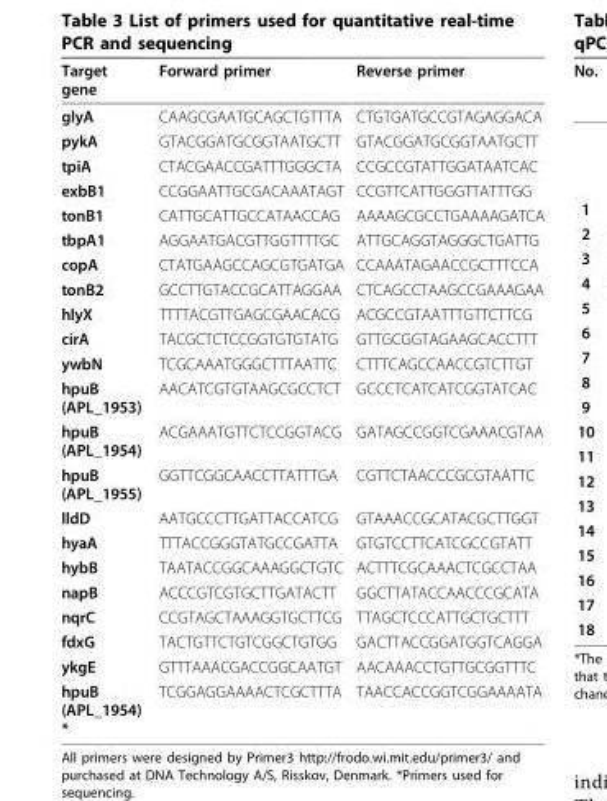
<table><thead><tr><td>Target gene</td><td>Forward primer</td><td>Reverse primer</td></tr></thead><tbody><tr><td>glyA</td><td>CAAGCGAATGCAGCTGTTTA</td><td>CTGTGATGCCGTAGAGGACA</td></tr><tr><td>pykA</td><td>GTACGGATGCGGTAATGCTT</td><td>GTACGGATGCGGTAATGCTT</td></tr><tr><td>tpiA</td><td>CTACGAACCGATTTGGGCTA</td><td>CCGCCGTATTGGATAATCAC</td></tr><tr><td>exbB1</td><td>CCGGAATTGCGACAAATAGT</td><td>CCGTTCATTGGGTTATTTGG</td></tr><tr><td>tonB1</td><td>CATTGCATTGCCATAACCAG</td><td>AAAAGCGCCTGAAAAGATCA</td></tr><tr><td>tbpA1</td><td>AGGAATGACGTTGGTTTTGC</td><td>ATTGCAGGTAGGGCTGATTG</td></tr><tr><td>copA</td><td>CTATGAAGCCAGCGTGATGA</td><td>CCAAATAGAACCGCTTTCCA</td></tr><tr><td>tonB2</td><td>GCCTTGTACCGCATTAGGAA</td><td>CTCAGCCTAAGCCGAAAGAA</td></tr><tr><td>hlyX</td><td>TTTTACGTTGAGCGAACACG</td><td>ACGCCGTAATTTGTTCTTCG</td></tr><tr><td>cirA</td><td>TACGCTCTCCGGTGTGTATG</td><td>GTTGCGGTAGAAGCACCTTT</td></tr><tr><td>ywbN</td><td>TCGCAAATGGGCTTTAATTC</td><td>CTTTCAGCCAACCGTCTTGT</td></tr><tr><td>hpuB (APL_1953)</td><td>AACATCGTGTAAGCGCCTCT</td><td>GCCCTCATCATCGGTATCAC</td></tr><tr><td>hpuB (APL_1954)</td><td>ACGAAATGTTCTCCGGTACG</td><td>GATAGCCGGTCGAAACGTAA</td></tr><tr><td>hpuB (APL_1955)</td><td>GGTTCGGCAACCTTATTTGA</td><td>CGTTCTAACCCGCGTAATTC</td></tr><tr><td>lldD</td><td>AATGCCCTTGATTACCATCG</td><td>GTAAACCGCATACGCTTGGT</td></tr><tr><td>hyaA</td><td>TTTACCGGGTATGCCGATTA</td><td>GTGTCCTTCATCGCCGTATT</td></tr><tr><td>hybB</td><td>TAATACCGGCAAAGGCTGTC</td><td>ACTTTCGCAAACTCGCCTAA</td></tr><tr><td>napB</td><td>ACCCGTCGTGCTTGATACTT</td><td>GGCTTATACCAACCCGCATA</td></tr><tr><td>nqrC</td><td>CCGTAGCTAAAGGTGCTTCG</td><td>TTAGCTCCCATTGCTGCTTT</td></tr><tr><td>fdxG</td><td>TACTGTTCTGTCGGCTGTGG</td><td>GACTTACCGGATGGTCAGGA</td></tr><tr><td>ykgE</td><td>GTTTAAACGACCGGCAATGT</td><td>AACAAACCTGTTGCGGTTTC</td></tr><tr><td>hpuB (APL_1954) *</td><td>TCGGAGGAAAACTCGCTTTA</td><td>TAACCACCGGTCGGAAAATA</td></tr></tbody></table>